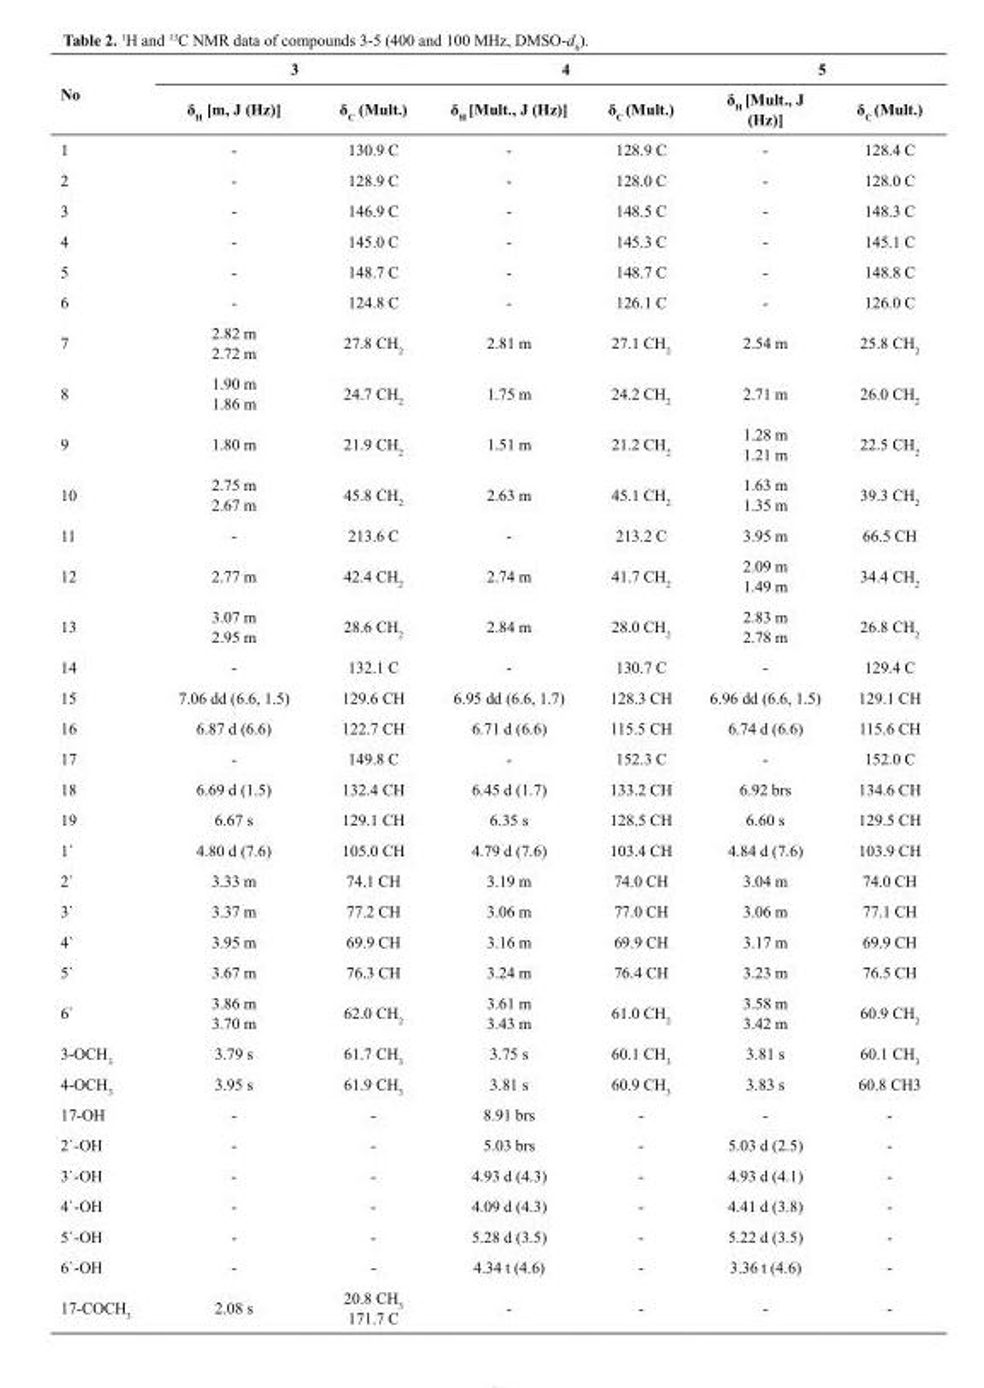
<table><thead><tr><td rowspan="2">No</td><td colspan="2">3</td><td colspan="2">4</td><td colspan="2">5</td></tr><tr><td>δH [m, J (Hz)]</td><td>δC (Mult.)</td><td>δH [Mult., J (Hz)]</td><td>δC (Mult.)</td><td>δH [Mult., J (Hz)]</td><td>δC (Mult.)</td></tr></thead><tbody><tr><td>1</td><td>-</td><td>130.9 C</td><td>-</td><td>128.9 C</td><td>-</td><td>128.4 C</td></tr><tr><td>2</td><td>-</td><td>128.9 C</td><td>-</td><td>128.0 C</td><td>-</td><td>128.0 C</td></tr><tr><td>3</td><td>-</td><td>146.9 C</td><td>-</td><td>148.5 C</td><td>-</td><td>148.3 C</td></tr><tr><td>4</td><td>-</td><td>145.0 C</td><td>-</td><td>145.3 C</td><td>-</td><td>145.1 C</td></tr><tr><td>5</td><td>-</td><td>148.7 C</td><td>-</td><td>148.7 C</td><td>-</td><td>148.8 C</td></tr><tr><td>6</td><td>-</td><td>124.8 C</td><td>-</td><td>126.1 C</td><td>-</td><td>126.0 C</td></tr><tr><td>7</td><td>2.82 m 2.72 m</td><td>27.8 CH<sub>2</sub></td><td>2.81 m</td><td>27.1 CH<sub>2</sub></td><td>2.54 m</td><td>25.8 CH<sub>2</sub></td></tr><tr><td>8</td><td>1.90 m 1.86 m</td><td>24.7 CH<sub>2</sub></td><td>1.75 m</td><td>24.2 CH<sub>2</sub></td><td>2.71 m</td><td>26.0 CH<sub>2</sub></td></tr><tr><td>9</td><td>1.80 m</td><td>21.9 CH<sub>2</sub></td><td>1.51 m</td><td>21.2 CH<sub>2</sub></td><td>1.28 m 1.21 m</td><td>22.5 CH<sub>2</sub></td></tr><tr><td>10</td><td>2.75 m 2.67 m</td><td>45.8 CH<sub>2</sub></td><td>2.63 m</td><td>45.1 CH<sub>2</sub></td><td>1.63 m 1.35 m</td><td>39.3 CH<sub>2</sub></td></tr><tr><td>11</td><td>-</td><td>213.6 C</td><td>-</td><td>213.2 C</td><td>3.95 m</td><td>66.5 CH</td></tr><tr><td>12</td><td>2.77 m</td><td>42.4 CH<sub>2</sub></td><td>2.74 m</td><td>41.7 CH<sub>2</sub></td><td>2.09 m 1.49 m</td><td>34.4 CH<sub>2</sub></td></tr><tr><td>13</td><td>3.07 m 2.95 m</td><td>28.6 CH<sub>2</sub></td><td>2.84 m</td><td>28.0 CH<sub>2</sub></td><td>2.83 m 2.78 m</td><td>26.8 CH<sub>2</sub></td></tr><tr><td>14</td><td>-</td><td>132.1 C</td><td>-</td><td>130.7 C</td><td>-</td><td>129.4 C</td></tr><tr><td>15</td><td>7.06 dd (6.6, 1.5)</td><td>129.6 CH</td><td>6.95 dd (6.6, 1.7)</td><td>128.3 CH</td><td>6.96 dd (6.6, 1.5)</td><td>129.1 CH</td></tr><tr><td>16</td><td>6.87 d (6.6)</td><td>122.7 CH</td><td>6.71 d (6.6)</td><td>115.5 CH</td><td>6.74 d (6.6)</td><td>115.6 CH</td></tr><tr><td>17</td><td>-</td><td>149.8 C</td><td>-</td><td>152.3 C</td><td>-</td><td>152.0 C</td></tr><tr><td>18</td><td>6.69 d (1.5)</td><td>132.4 CH</td><td>6.45 d (1.7)</td><td>133.2 CH</td><td>6.92 brs</td><td>134.6 CH</td></tr><tr><td>19</td><td>6.67 s</td><td>129.1 CH</td><td>6.35 s</td><td>128.5 CH</td><td>6.60 s</td><td>129.5 CH</td></tr><tr><td>1`</td><td>4.80 d (7.6)</td><td>105.0 CH</td><td>4.79 d (7.6)</td><td>103.4 CH</td><td>4.84 d (7.6)</td><td>103.9 CH</td></tr><tr><td>2`</td><td>3.33 m</td><td>74.1 CH</td><td>3.19 m</td><td>74.0 CH</td><td>3.04 m</td><td>74.0 CH</td></tr><tr><td>3`</td><td>3.37 m</td><td>77.2 CH</td><td>3.06 m</td><td>77.0 CH</td><td>3.06 m</td><td>77.1 CH</td></tr><tr><td>4`</td><td>3.95 m</td><td>69.9 CH</td><td>3.16 m</td><td>69.9 CH</td><td>3.17 m</td><td>69.9 CH</td></tr><tr><td>5`</td><td>3.67 m</td><td>76.3 CH</td><td>3.24 m</td><td>76.4 CH</td><td>3.23 m</td><td>76.5 CH</td></tr><tr><td>6`</td><td>3.86 m 3.70 m</td><td>62.0 CH<sub>2</sub></td><td>3.61 m 3.43 m</td><td>61.0 CH<sub>2</sub></td><td>3.58 m 3.42 m</td><td>60.9 CH<sub>2</sub></td></tr><tr><td>3-OCH<sub>3</sub></td><td>3.79 s</td><td>61.7 CH<sub>3</sub></td><td>3.75 s</td><td>60.1 CH<sub>3</sub></td><td>3.81 s</td><td>60.1 CH<sub>3</sub></td></tr><tr><td>4-OCH<sub>3</sub></td><td>3.95 s</td><td>61.9 CH<sub>3</sub></td><td>3.81 s</td><td>60.9 CH<sub>3</sub></td><td>3.83 s</td><td>60.8 CH<sub>3</sub></td></tr><tr><td>17-OH</td><td>-</td><td>-</td><td>8.91 brs</td><td>-</td><td>-</td><td>-</td></tr><tr><td>2`-OH</td><td>-</td><td>-</td><td>5.03 brs</td><td>-</td><td>5.03 d (2.5)</td><td>-</td></tr><tr><td>3`-OH</td><td>-</td><td>-</td><td>4.93 d (4.3)</td><td>-</td><td>4.93 d (4.1)</td><td>-</td></tr><tr><td>4`-OH</td><td>-</td><td>-</td><td>4.09 d (4.3)</td><td>-</td><td>4.41 d (3.8)</td><td>-</td></tr><tr><td>5`-OH</td><td>-</td><td>-</td><td>5.28 d (3.5)</td><td>-</td><td>5.22 d (3.5)</td><td>-</td></tr><tr><td>6`-OH</td><td>-</td><td>-</td><td>4.34 t (4.6)</td><td>-</td><td>3.36 t (4.6)</td><td>-</td></tr><tr><td>17-COCH<sub>3</sub></td><td>2.08 s</td><td>20.8 CH<sub>3</sub> 171.7 C</td><td>-</td><td>-</td><td>-</td><td>-</td></tr></tbody></table>